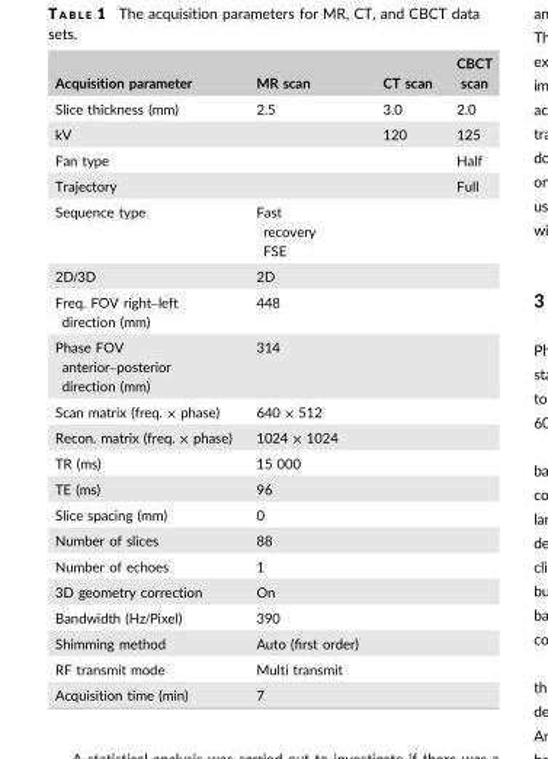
<table><thead><tr><td>Acquisition parameter</td><td>MR scan</td><td>CT scan</td><td>CBCT scan</td></tr></thead><tbody><tr><td>Slice thickness (mm)</td><td>2.5</td><td>3.0</td><td>2.0</td></tr><tr><td>kV</td><td></td><td>120</td><td>125</td></tr><tr><td>Fan type</td><td></td><td></td><td>Half</td></tr><tr><td>Trajectory</td><td></td><td></td><td>Full</td></tr><tr><td>Sequence type</td><td>Fast recovery FSE</td><td></td><td></td></tr><tr><td>2D/3D</td><td>2D</td><td></td><td></td></tr><tr><td>Freq. FOV right–left direction (mm)</td><td>448</td><td></td><td></td></tr><tr><td>Phase FOV anterior–posterior direction (mm)</td><td>314</td><td></td><td></td></tr><tr><td>Scan matrix (freq. × phase)</td><td>640 × 512</td><td></td><td></td></tr><tr><td>Recon. matrix (freq. × phase)</td><td>1024 × 1024</td><td></td><td></td></tr><tr><td>TR (ms)</td><td>15 000</td><td></td><td></td></tr><tr><td>TE (ms)</td><td>96</td><td></td><td></td></tr><tr><td>Slice spacing (mm)</td><td>0</td><td></td><td></td></tr><tr><td>Number of slices</td><td>88</td><td></td><td></td></tr><tr><td>Number of echoes</td><td>1</td><td></td><td></td></tr><tr><td>3D geometry correction</td><td>On</td><td></td><td></td></tr><tr><td>Bandwidth (Hz/Pixel)</td><td>390</td><td></td><td></td></tr><tr><td>Shimming method</td><td>Auto (first order)</td><td></td><td></td></tr><tr><td>RF transmit mode</td><td>Multi transmit</td><td></td><td></td></tr><tr><td>Acquisition time (min)</td><td>7</td><td></td><td></td></tr></tbody></table>